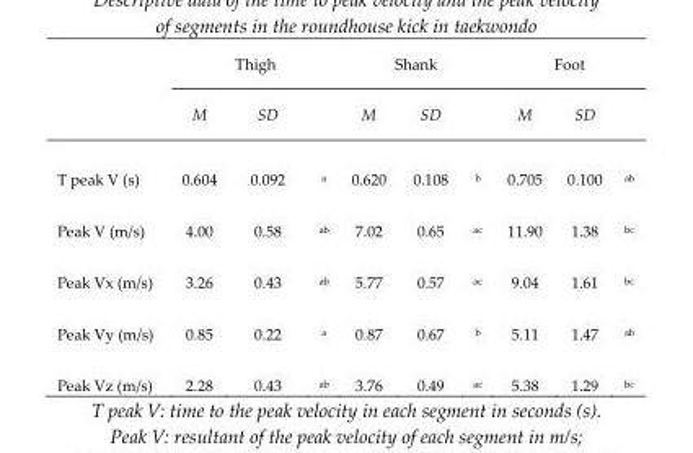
<table><thead><tr><td rowspan="2"></td><td colspan="2">Thigh</td><td colspan="2">Shank</td><td colspan="2">Foot</td></tr><tr><td>M</td><td>SD</td><td>M</td><td>SD</td><td>M</td><td>SD</td></tr></thead><tbody><tr><td>T peak V (s)</td><td>0.604</td><td>0.092 <sup>a</sup></td><td>0.620</td><td>0.108 <sup>b</sup></td><td>0.705</td><td>0.100 <sup>ab</sup></td></tr><tr><td>Peak V (m/s)</td><td>4.00</td><td>0.58 <sup>ab</sup></td><td>7.02</td><td>0.65 <sup>ac</sup></td><td>11.90</td><td>1.38 <sup>bc</sup></td></tr><tr><td>Peak Vx (m/s)</td><td>3.26</td><td>0.43 <sup>ab</sup></td><td>5.77</td><td>0.57 <sup>ac</sup></td><td>9.04</td><td>1.61 <sup>bc</sup></td></tr><tr><td>Peak Vy (m/s)</td><td>0.85</td><td>0.22 <sup>a</sup></td><td>0.87</td><td>0.67 <sup>b</sup></td><td>5.11</td><td>1.47 <sup>ab</sup></td></tr><tr><td>Peak Vz (m/s)</td><td>2.28</td><td>0.43 <sup>ab</sup></td><td>3.76</td><td>0.49 <sup>ac</sup></td><td>5.38</td><td>1.29 <sup>bc</sup></td></tr></tbody></table>